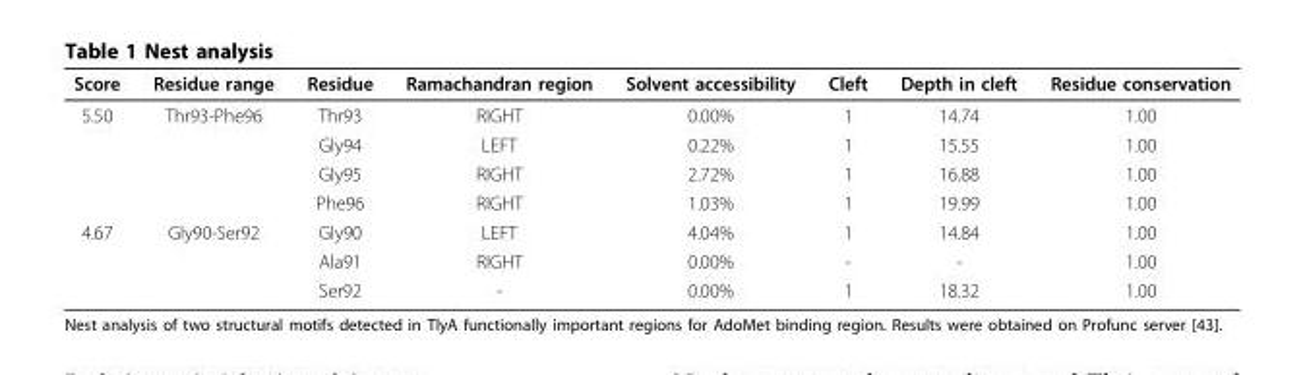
<table><thead><tr><td>Score</td><td>Residue range</td><td>Residue</td><td>Ramachandran region</td><td>Solvent accessibility</td><td>Cleft</td><td>Depth in cleft</td><td>Residue conservation</td></tr></thead><tbody><tr><td rowspan="4">5.50</td><td>Thr93-Phe96</td><td>Thr93</td><td>RIGHT</td><td>0.00%</td><td>1</td><td>14.74</td><td>1.00</td></tr><tr><td></td><td>Gly94</td><td>LEFT</td><td>0.22%</td><td>1</td><td>15.55</td><td>1.00</td></tr><tr><td></td><td>Gly95</td><td>RIGHT</td><td>2.72%</td><td>1</td><td>16.88</td><td>1.00</td></tr><tr><td></td><td>Phe96</td><td>RIGHT</td><td>1.03%</td><td>1</td><td>19.99</td><td>1.00</td></tr><tr><td rowspan="3">4.67</td><td>Gly90-Ser92</td><td>Gly90</td><td>LEFT</td><td>4.04%</td><td>1</td><td>14.84</td><td>1.00</td></tr><tr><td></td><td>Ala91</td><td>RIGHT</td><td>0.00%</td><td>-</td><td>-</td><td>1.00</td></tr><tr><td></td><td>Ser92</td><td>-</td><td>0.00%</td><td>1</td><td>18.32</td><td>1.00</td></tr></tbody></table>